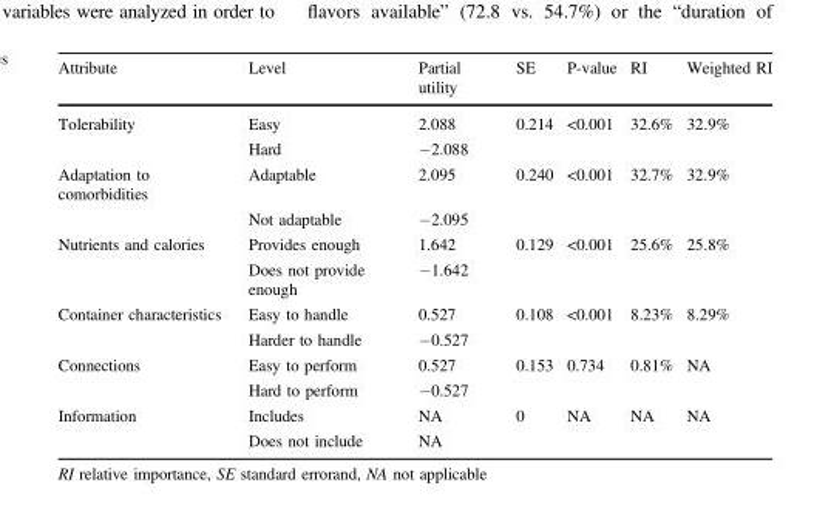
<table><thead><tr><td>Attribute</td><td>Level</td><td>Partial utility</td><td>SE</td><td>P-value</td><td>RI</td><td>Weighted RI</td></tr></thead><tbody><tr><td rowspan="2">Tolerability</td><td>Easy</td><td>2.088</td><td>0.214</td><td>&lt;0.001</td><td>32.6%</td><td>32.9%</td></tr><tr><td>Hard</td><td>−2.088</td><td></td><td></td><td></td><td></td></tr><tr><td rowspan="2">Adaptation to comorbidities</td><td>Adaptable</td><td>2.095</td><td>0.240</td><td>&lt;0.001</td><td>32.7%</td><td>32.9%</td></tr><tr><td>Not adaptable</td><td>−2.095</td><td></td><td></td><td></td><td></td></tr><tr><td rowspan="2">Nutrients and calories</td><td>Provides enough</td><td>1.642</td><td>0.129</td><td>&lt;0.001</td><td>25.6%</td><td>25.8%</td></tr><tr><td>Does not provide enough</td><td>−1.642</td><td></td><td></td><td></td><td></td></tr><tr><td rowspan="2">Container characteristics</td><td>Easy to handle</td><td>0.527</td><td>0.108</td><td>&lt;0.001</td><td>8.23%</td><td>8.29%</td></tr><tr><td>Harder to handle</td><td>−0.527</td><td></td><td></td><td></td><td></td></tr><tr><td rowspan="2">Connections</td><td>Easy to perform</td><td>0.527</td><td>0.153</td><td>0.734</td><td>0.81%</td><td>NA</td></tr><tr><td>Hard to perform</td><td>−0.527</td><td></td><td></td><td></td><td></td></tr><tr><td rowspan="2">Information</td><td>Includes</td><td>NA</td><td>0</td><td>NA</td><td>NA</td><td>NA</td></tr><tr><td>Does not include</td><td>NA</td><td></td><td></td><td></td><td></td></tr></tbody></table>